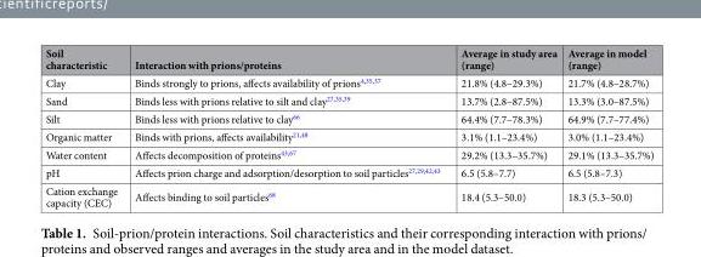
<table><thead><tr><td>Soil characteristic</td><td>Interaction with prions/proteins</td><td>Average in study area (range)</td><td>Average in model (range)</td></tr></thead><tbody><tr><td>Clay</td><td>Binds strongly to prions, affects availability of prions<sup>4,35,37</sup></td><td>21.8% (4.8–29.3%)</td><td>21.7% (4.8–28.7%)</td></tr><tr><td>Sand</td><td>Binds less with prions relative to silt and clay<sup>27,35,39</sup></td><td>13.7% (2.8–87.5%)</td><td>13.3% (3.0–87.5%)</td></tr><tr><td>Silt</td><td>Binds less with prions relative to clay<sup>66</sup></td><td>64.4% (7.7–78.3%)</td><td>64.9% (7.7–77.4%)</td></tr><tr><td>Organic matter</td><td>Binds with prions, affects availability<sup>21,48</sup></td><td>3.1% (1.1–23.4%)</td><td>3.0% (1.1–23.4%)</td></tr><tr><td>Water content</td><td>Affects decomposition of proteins<sup>43,67</sup></td><td>29.2% (13.3–35.7%)</td><td>29.1% (13.3–35.7%)</td></tr><tr><td>pH</td><td>Affects prion charge and adsorption/desorption to soil particles<sup>27,29,42,43</sup></td><td>6.5 (5.8–7.7)</td><td>6.5 (5.8–7.3)</td></tr><tr><td>Cation exchange capacity (CEC)</td><td>Affects binding to soil particles<sup>68</sup></td><td>18.4 (5.3–50.0)</td><td>18.3 (5.3–50.0)</td></tr></tbody></table>